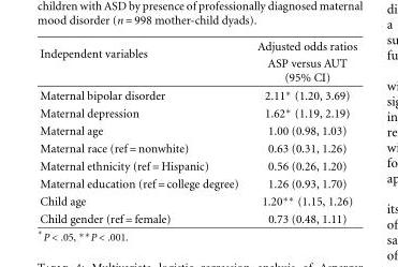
<table><thead><tr><td rowspan="2">Independent variables</td><td rowspan="2">Adjusted odds ratios ASP versus AUT (95% CI)</td></tr><tr></tr></thead><tbody><tr><td>Maternal bipolar disorder</td><td>2.11∗ (1.20, 3.69)</td></tr><tr><td>Maternal depression</td><td>1.62∗ (1.19, 2.19)</td></tr><tr><td>Maternal age</td><td>1.00 (0.98, 1.03)</td></tr><tr><td>Maternal race (ref = nonwhite)</td><td>0.63 (0.31, 1.26)</td></tr><tr><td>Maternal ethnicity (ref = Hispanic)</td><td>0.56 (0.26, 1.20)</td></tr><tr><td>Maternal education (ref = college degree)</td><td>1.26 (0.93, 1.70)</td></tr><tr><td>Child age</td><td>1.20∗∗ (1.15, 1.26)</td></tr><tr><td>Child gender (ref = female)</td><td>0.73 (0.48, 1.11)</td></tr></tbody></table>